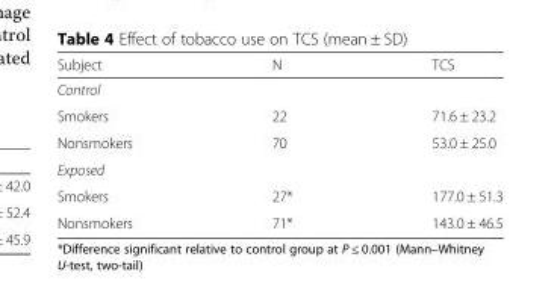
<table><thead><tr><td>Subject</td><td>N</td><td>TCS</td></tr></thead><tbody><tr><td colspan="3">Control</td></tr><tr><td>Smokers</td><td>22</td><td>71.6 ± 23.2</td></tr><tr><td>Nonsmokers</td><td>70</td><td>53.0 ± 25.0</td></tr><tr><td colspan="3">Exposed</td></tr><tr><td>Smokers</td><td>27*</td><td>177.0 ± 51.3</td></tr><tr><td>Nonsmokers</td><td>71*</td><td>143.0 ± 46.5</td></tr></tbody></table>